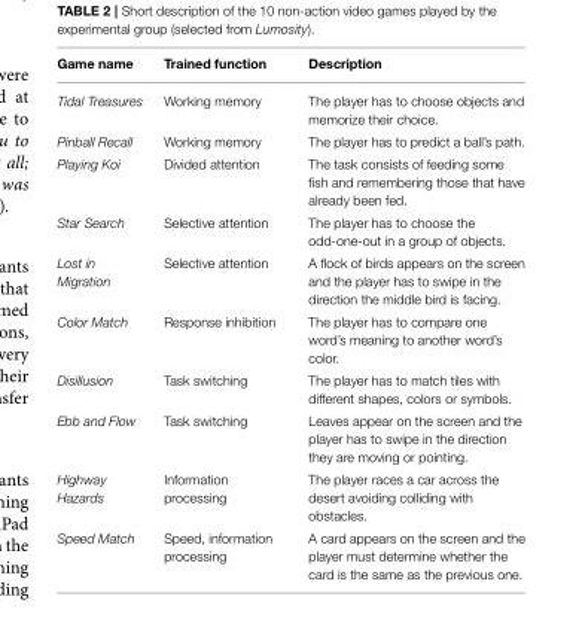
<table><thead><tr><td>Game name</td><td>Trained function</td><td>Description</td></tr></thead><tbody><tr><td>Tidal Treasures</td><td>Working memory</td><td>The player has to choose objects and memorize their choice.</td></tr><tr><td>Pinball Recall</td><td>Working memory</td><td>The player has to predict a ball’s path.</td></tr><tr><td>Playing Koi</td><td>Divided attention</td><td>The task consists of feeding some fish and remembering those that have already been fed.</td></tr><tr><td>Star Search</td><td>Selective attention</td><td>The player has to choose the odd-one-out in a group of objects.</td></tr><tr><td>Lost in Migration</td><td>Selective attention</td><td>A flock of birds appears on the screen and the player has to swipe in the direction the middle bird is facing.</td></tr><tr><td>Color Match</td><td>Response inhibition</td><td>The player has to compare one word’s meaning to another word’s color.</td></tr><tr><td>Disillusion</td><td>Task switching</td><td>The player has to match tiles with different shapes, colors or symbols.</td></tr><tr><td>Ebb and Flow</td><td>Task switching</td><td>Leaves appear on the screen and the player has to swipe in the direction they are moving or pointing.</td></tr><tr><td>Highway Hazards</td><td>Information processing</td><td>The player races a car across the desert avoiding colliding with obstacles.</td></tr><tr><td>Speed Match</td><td>Speed, information processing</td><td>A card appears on the screen and the player must determine whether the card is the same as the previous one.</td></tr></tbody></table>